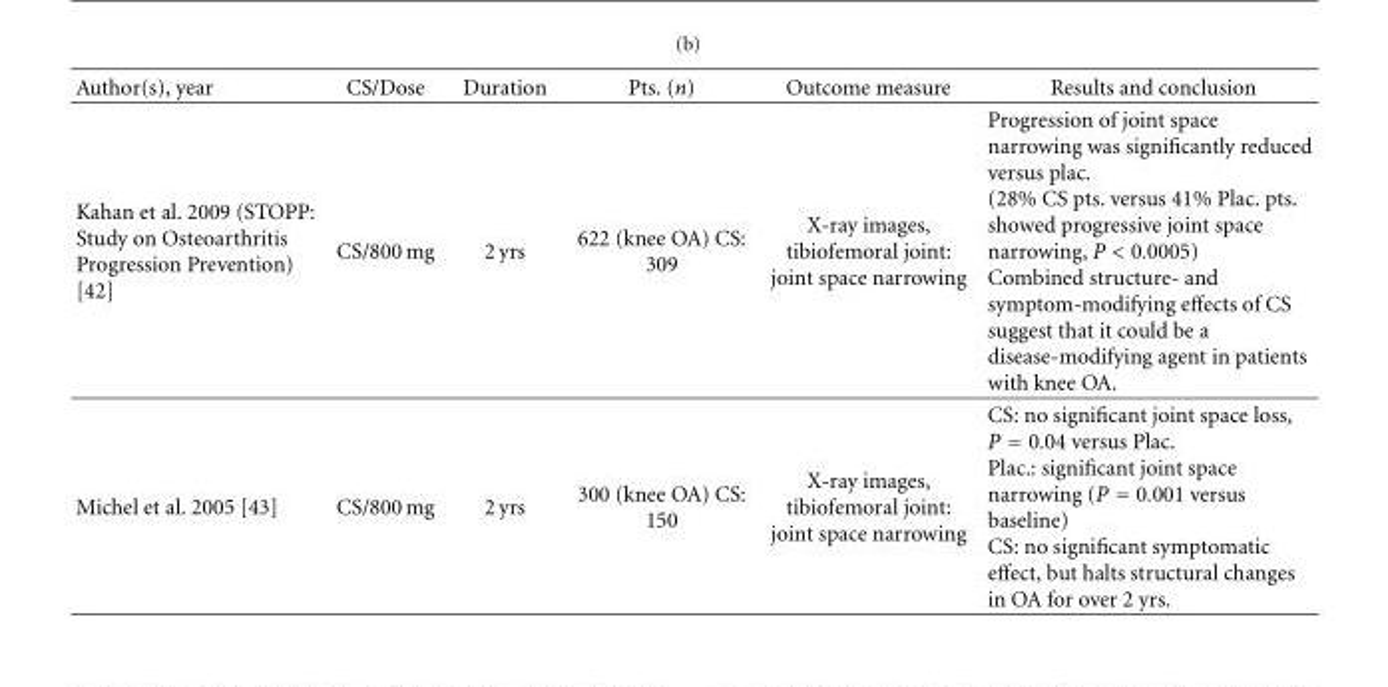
<table><thead><tr><td>Author(s), year</td><td>CS/Dose</td><td>Duration</td><td>Pts. (n)</td><td>Outcome measure</td><td>Results and conclusion</td></tr></thead><tbody><tr><td>Kahan et al. 2009 (STOPP: Study on Osteoarthritis Progression Prevention) [42]</td><td>CS/800 mg</td><td>2 yrs</td><td>622 (knee OA) CS: 309</td><td>X-ray images, tibiofemoral joint: joint space narrowing</td><td>Progression of joint space narrowing was significantly reduced versus plac. (28% CS pts. versus 41% Plac. pts. showed progressive joint space narrowing, P &lt; 0.0005) Combined structure- and symptom-modifying effects of CS suggest that it could be a disease-modifying agent in patients with knee OA.</td></tr><tr><td>Michel et al. 2005 [43]</td><td>CS/800 mg</td><td>2 yrs</td><td>300 (knee OA) CS: 150</td><td>X-ray images, tibiofemoral joint: joint space narrowing</td><td>CS: no significant joint space loss, P = 0.04 versus Plac. Plac.: significant joint space narrowing (P = 0.001 versus baseline) CS: no significant symptomatic effect, but halts structural changes in OA for over 2 yrs.</td></tr></tbody></table>